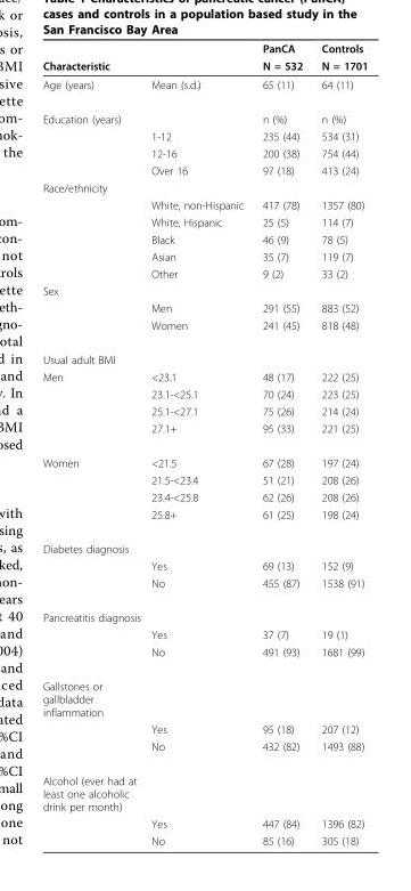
<table><thead><tr><td rowspan="2">Characteristic</td><td rowspan="2"></td><td rowspan="2">PanCA N = 532</td><td rowspan="2">Controls N = 1701</td></tr><tr></tr></thead><tbody><tr><td>Age (years)</td><td>Mean (s.d.)</td><td>65 (11)</td><td>64 (11)</td></tr><tr><td rowspan="4">Education (years)</td><td></td><td>n (%)</td><td>n (%)</td></tr><tr><td>1-12</td><td>235 (44)</td><td>534 (31)</td></tr><tr><td>12-16</td><td>200 (38)</td><td>754 (44)</td></tr><tr><td>Over 16</td><td>97 (18)</td><td>413 (24)</td></tr><tr><td colspan="4">Race/ethnicity</td></tr><tr><td></td><td>White, non-Hispanic</td><td>417 (78)</td><td>1357 (80)</td></tr><tr><td></td><td>White, Hispanic</td><td>25 (5)</td><td>114 (7)</td></tr><tr><td></td><td>Black</td><td>46 (9)</td><td>78 (5)</td></tr><tr><td></td><td>Asian</td><td>35 (7)</td><td>119 (7)</td></tr><tr><td></td><td>Other</td><td>9 (2)</td><td>33 (2)</td></tr><tr><td colspan="4">Sex</td></tr><tr><td></td><td>Men</td><td>291 (55)</td><td>883 (52)</td></tr><tr><td></td><td>Women</td><td>241 (45)</td><td>818 (48)</td></tr><tr><td colspan="4">Usual adult BMI</td></tr><tr><td rowspan="4">Men</td><td>&lt;23.1</td><td>48 (17)</td><td>222 (25)</td></tr><tr><td>23.1-&lt;25.1</td><td>70 (24)</td><td>223 (25)</td></tr><tr><td>25.1-&lt;27.1</td><td>75 (26)</td><td>214 (24)</td></tr><tr><td>27.1+</td><td>95 (33)</td><td>221 (25)</td></tr><tr><td rowspan="4">Women</td><td>&lt;21.5</td><td>67 (28)</td><td>197 (24)</td></tr><tr><td>21.5-&lt;23.4</td><td>51 (21)</td><td>208 (26)</td></tr><tr><td>23.4-&lt;25.8</td><td>62 (26)</td><td>208 (26)</td></tr><tr><td>25.8+</td><td>61 (25)</td><td>198 (24)</td></tr><tr><td colspan="4">Diabetes diagnosis</td></tr><tr><td></td><td>Yes</td><td>69 (13)</td><td>152 (9)</td></tr><tr><td></td><td>No</td><td>455 (87)</td><td>1538 (91)</td></tr><tr><td colspan="4">Pancreatitis diagnosis</td></tr><tr><td></td><td>Yes</td><td>37 (7)</td><td>19 (1)</td></tr><tr><td></td><td>No</td><td>491 (93)</td><td>1681 (99)</td></tr><tr><td colspan="4">Gallstones or gallbladder inflammation</td></tr><tr><td></td><td>Yes</td><td>95 (18)</td><td>207 (12)</td></tr><tr><td></td><td>No</td><td>432 (82)</td><td>1493 (88)</td></tr><tr><td colspan="4">Alcohol (ever had at least one alcoholic drink per month)</td></tr><tr><td></td><td>Yes</td><td>447 (84)</td><td>1396 (82)</td></tr><tr><td></td><td>No</td><td>85 (16)</td><td>305 (18)</td></tr></tbody></table>